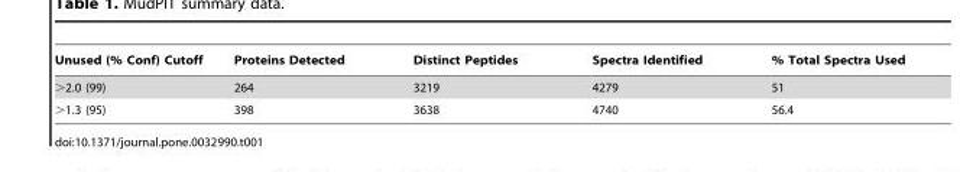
<table><thead><tr><td>Unused (% Conf) Cutoff</td><td>Proteins Detected</td><td>Distinct Peptides</td><td>Spectra Identified</td><td>% Total Spectra Used</td></tr></thead><tbody><tr><td>&gt;2.0 (99)</td><td>264</td><td>3219</td><td>4279</td><td>51</td></tr><tr><td>&gt;1.3 (95)</td><td>398</td><td>3638</td><td>4740</td><td>56.4</td></tr></tbody></table>